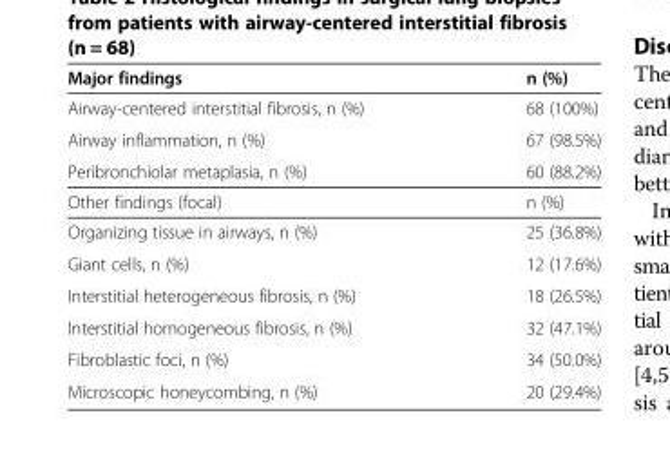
<table><thead><tr><td>Major findings</td><td>n (%)</td></tr></thead><tbody><tr><td>Airway-centered interstitial fibrosis, n (%)</td><td>68 (100%)</td></tr><tr><td>Airway inflammation, n (%)</td><td>67 (98.5%)</td></tr><tr><td>Peribronchiolar metaplasia, n (%)</td><td>60 (88.2%)</td></tr><tr><td>Other findings (focal)</td><td>n (%)</td></tr><tr><td>Organizing tissue in airways, n (%)</td><td>25 (36.8%)</td></tr><tr><td>Giant cells, n (%)</td><td>12 (17.6%)</td></tr><tr><td>Interstitial heterogeneous fibrosis, n (%)</td><td>18 (26.5%)</td></tr><tr><td>Interstitial homogeneous fibrosis, n (%)</td><td>32 (47.1%)</td></tr><tr><td>Fibroblastic foci, n (%)</td><td>34 (50.0%)</td></tr><tr><td>Microscopic honeycombing, n (%)</td><td>20 (29.4%)</td></tr></tbody></table>